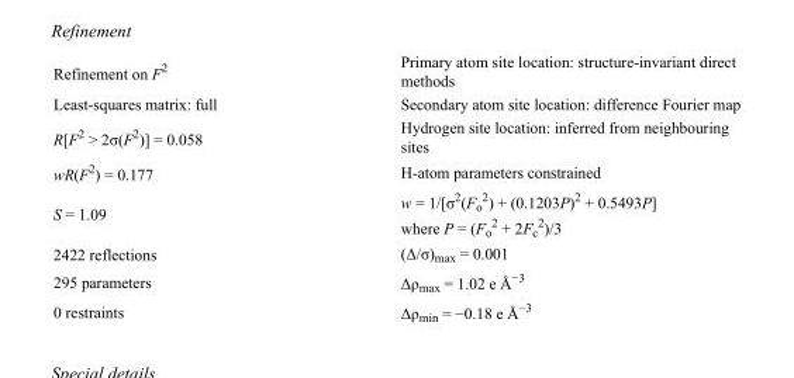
<table><tbody><tr><td>Refinement on F<sup>2</sup></td><td>Primary atom site location: structure-invariant direct methods</td></tr><tr><td>Least-squares matrix: full</td><td>Secondary atom site location: difference Fourier map</td></tr><tr><td>R[F<sup>2</sup> &gt; 2σ(F<sup>2</sup>)] = 0.058</td><td>Hydrogen site location: inferred from neighbouring sites</td></tr><tr><td>wR(F<sup>2</sup>) = 0.177</td><td>H-atom parameters constrained</td></tr><tr><td>S = 1.09</td><td>w = 1/[σ<sup>2</sup>(F<sub>o</sub> <sup>2</sup>) + (0.1203P)<sup>2</sup> + 0.5493P] where P = (F<sub>o</sub> <sup>2</sup> + 2F<sub>c</sub> <sup>2</sup>)/3</td></tr><tr><td>2422 reflections</td><td>(Δ/σ)<sub>max</sub> = 0.001</td></tr><tr><td>295 parameters</td><td>Δρ<sub>max</sub> = 1.02 e Å<sup>−3</sup></td></tr><tr><td>0 restraints</td><td>Δρ<sub>min</sub> = −0.18 e Å<sup>−3</sup></td></tr></tbody></table>